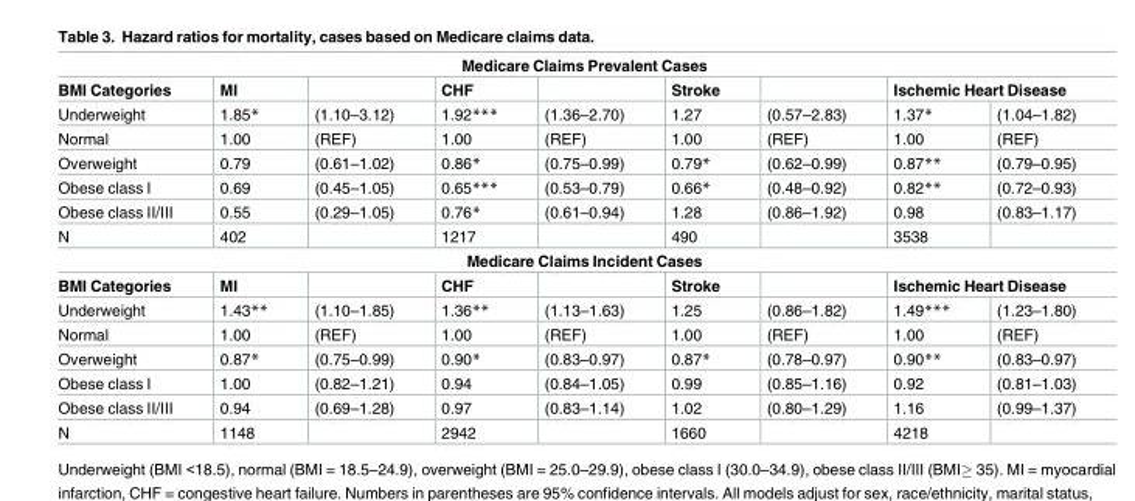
<table><tbody><tr><td colspan="9">Medicare Claims Prevalent Cases</td></tr><tr><td>BMI Categories</td><td>MI</td><td></td><td>CHF</td><td></td><td>Stroke</td><td></td><td colspan="2">Ischemic Heart Disease</td></tr><tr><td>Underweight</td><td>1.85*</td><td>(1.10–3.12)</td><td>1.92***</td><td>(1.36–2.70)</td><td>1.27</td><td>(0.57–2.83)</td><td>1.37*</td><td>(1.04–1.82)</td></tr><tr><td>Normal</td><td>1.00</td><td>(REF)</td><td>1.00</td><td>(REF)</td><td>1.00</td><td>(REF)</td><td>1.00</td><td>(REF)</td></tr><tr><td>Overweight</td><td>0.79</td><td>(0.61–1.02)</td><td>0.86*</td><td>(0.75–0.99)</td><td>0.79*</td><td>(0.62–0.99)</td><td>0.87**</td><td>(0.79–0.95)</td></tr><tr><td>Obese class I</td><td>0.69</td><td>(0.45–1.05)</td><td>0.65***</td><td>(0.53–0.79)</td><td>0.66*</td><td>(0.48–0.92)</td><td>0.82**</td><td>(0.72–0.93)</td></tr><tr><td>Obese class II/III</td><td>0.55</td><td>(0.29–1.05)</td><td>0.76*</td><td>(0.61–0.94)</td><td>1.28</td><td>(0.86–1.92)</td><td>0.98</td><td>(0.83–1.17)</td></tr><tr><td>N</td><td>402</td><td></td><td>1217</td><td></td><td>490</td><td></td><td>3538</td><td></td></tr><tr><td colspan="9">Medicare Claims Incident Cases</td></tr><tr><td>BMI Categories</td><td>MI</td><td></td><td>CHF</td><td></td><td>Stroke</td><td></td><td colspan="2">Ischemic Heart Disease</td></tr><tr><td>Underweight</td><td>1.43**</td><td>(1.10–1.85)</td><td>1.36**</td><td>(1.13–1.63)</td><td>1.25</td><td>(0.86–1.82)</td><td>1.49***</td><td>(1.23–1.80)</td></tr><tr><td>Normal</td><td>1.00</td><td>(REF)</td><td>1.00</td><td>(REF)</td><td>1.00</td><td>(REF)</td><td>1.00</td><td>(REF)</td></tr><tr><td>Overweight</td><td>0.87*</td><td>(0.75–0.99)</td><td>0.90*</td><td>(0.83–0.97)</td><td>0.87*</td><td>(0.78–0.97)</td><td>0.90**</td><td>(0.83–0.97)</td></tr><tr><td>Obese class I</td><td>1.00</td><td>(0.82–1.21)</td><td>0.94</td><td>(0.84–1.05)</td><td>0.99</td><td>(0.85–1.16)</td><td>0.92</td><td>(0.81–1.03)</td></tr><tr><td>Obese class II/III</td><td>0.94</td><td>(0.69–1.28)</td><td>0.97</td><td>(0.83–1.14)</td><td>1.02</td><td>(0.80–1.29)</td><td>1.16</td><td>(0.99–1.37)</td></tr><tr><td>N</td><td>1148</td><td></td><td>2942</td><td></td><td>1660</td><td></td><td>4218</td><td></td></tr></tbody></table>